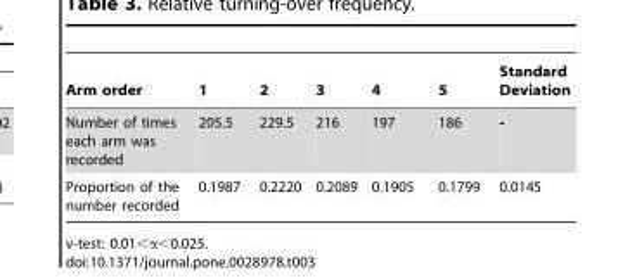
<table><thead><tr><td>Arm order</td><td>1</td><td>2</td><td>3</td><td>4</td><td>5</td><td>Standard Deviation</td></tr></thead><tbody><tr><td>Number of times each arm was recorded</td><td>205.5</td><td>229.5</td><td>216</td><td>197</td><td>186</td><td>-</td></tr><tr><td>Proportion of the number recorded</td><td>0.1987</td><td>0.2220</td><td>0.2089</td><td>0.1905</td><td>0.1799</td><td>0.0145</td></tr></tbody></table>